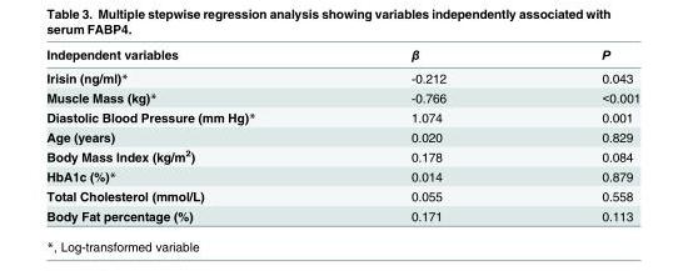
<table><thead><tr><td>Independent variables</td><td>β</td><td>P</td></tr></thead><tbody><tr><td>Irisin (ng/ml)*</td><td>-0.212</td><td>0.043</td></tr><tr><td>Muscle Mass (kg)*</td><td>-0.766</td><td>&lt;0.001</td></tr><tr><td>Diastolic Blood Pressure (mm Hg)*</td><td>1.074</td><td>0.001</td></tr><tr><td>Age (years)</td><td>0.020</td><td>0.829</td></tr><tr><td>Body Mass Index (kg/m<sup>2</sup>)</td><td>0.178</td><td>0.084</td></tr><tr><td>HbA1c (%)*</td><td>0.014</td><td>0.879</td></tr><tr><td>Total Cholesterol (mmol/L)</td><td>0.055</td><td>0.558</td></tr><tr><td>Body Fat percentage (%)</td><td>0.171</td><td>0.113</td></tr></tbody></table>